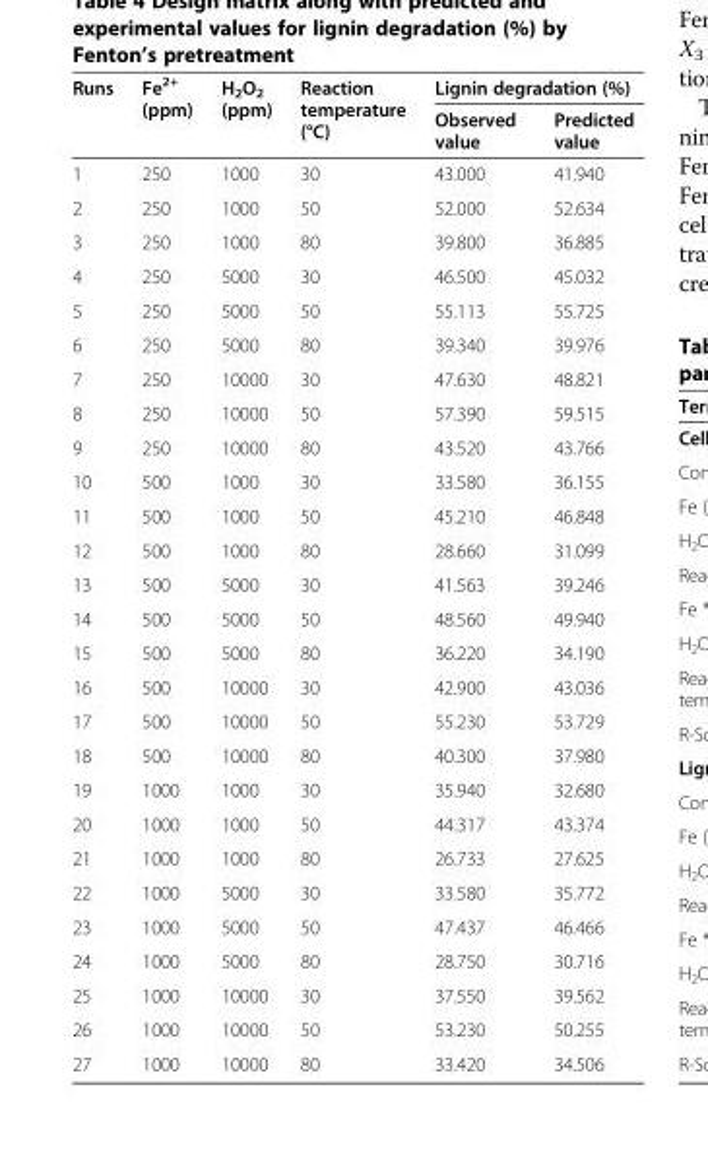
<table><thead><tr><td rowspan="2">Runs</td><td rowspan="2">Fe<sup>2+</sup> (ppm)</td><td rowspan="2">H<sub>2</sub>O<sub>2</sub> (ppm)</td><td rowspan="2">Reaction temperature (°C)</td><td colspan="2">Lignin degradation (%)</td></tr><tr><td>Observed value</td><td>Predicted value</td></tr></thead><tbody><tr><td>1</td><td>250</td><td>1000</td><td>30</td><td>43.000</td><td>41.940</td></tr><tr><td>2</td><td>250</td><td>1000</td><td>50</td><td>52.000</td><td>52.634</td></tr><tr><td>3</td><td>250</td><td>1000</td><td>80</td><td>39.800</td><td>36.885</td></tr><tr><td>4</td><td>250</td><td>5000</td><td>30</td><td>46.500</td><td>45.032</td></tr><tr><td>5</td><td>250</td><td>5000</td><td>50</td><td>55.113</td><td>55.725</td></tr><tr><td>6</td><td>250</td><td>5000</td><td>80</td><td>39.340</td><td>39.976</td></tr><tr><td>7</td><td>250</td><td>10000</td><td>30</td><td>47.630</td><td>48.821</td></tr><tr><td>8</td><td>250</td><td>10000</td><td>50</td><td>57.390</td><td>59.515</td></tr><tr><td>9</td><td>250</td><td>10000</td><td>80</td><td>43.520</td><td>43.766</td></tr><tr><td>10</td><td>500</td><td>1000</td><td>30</td><td>33.580</td><td>36.155</td></tr><tr><td>11</td><td>500</td><td>1000</td><td>50</td><td>45.210</td><td>46.848</td></tr><tr><td>12</td><td>500</td><td>1000</td><td>80</td><td>28.660</td><td>31.099</td></tr><tr><td>13</td><td>500</td><td>5000</td><td>30</td><td>41.563</td><td>39.246</td></tr><tr><td>14</td><td>500</td><td>5000</td><td>50</td><td>48.560</td><td>49.940</td></tr><tr><td>15</td><td>500</td><td>5000</td><td>80</td><td>36.220</td><td>34.190</td></tr><tr><td>16</td><td>500</td><td>10000</td><td>30</td><td>42.900</td><td>43.036</td></tr><tr><td>17</td><td>500</td><td>10000</td><td>50</td><td>55.230</td><td>53.729</td></tr><tr><td>18</td><td>500</td><td>10000</td><td>80</td><td>40.300</td><td>37.980</td></tr><tr><td>19</td><td>1000</td><td>1000</td><td>30</td><td>35.940</td><td>32.680</td></tr><tr><td>20</td><td>1000</td><td>1000</td><td>50</td><td>44.317</td><td>43.374</td></tr><tr><td>21</td><td>1000</td><td>1000</td><td>80</td><td>26.733</td><td>27.625</td></tr><tr><td>22</td><td>1000</td><td>5000</td><td>30</td><td>33.580</td><td>35.772</td></tr><tr><td>23</td><td>1000</td><td>5000</td><td>50</td><td>47.437</td><td>46.466</td></tr><tr><td>24</td><td>1000</td><td>5000</td><td>80</td><td>28.750</td><td>30.716</td></tr><tr><td>25</td><td>1000</td><td>10000</td><td>30</td><td>37.550</td><td>39.562</td></tr><tr><td>26</td><td>1000</td><td>10000</td><td>50</td><td>53.230</td><td>50.255</td></tr><tr><td>27</td><td>1000</td><td>10000</td><td>80</td><td>33.420</td><td>34.506</td></tr></tbody></table>